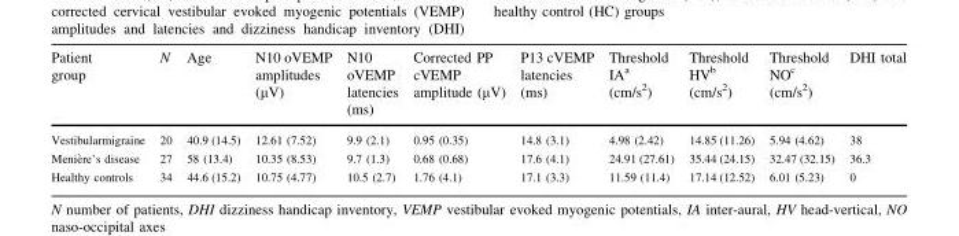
<table><thead><tr><td>Patient group</td><td>N</td><td>Age</td><td>N10 oVEMP amplitudes (µV)</td><td>N10 oVEMP latencies (ms)</td><td>Corrected PP cVEMP amplitude (μV)</td><td>P13 cVEMP latencies (ms)</td><td>Threshold IA<sup>a</sup> (cm/s<sup>2</sup>)</td><td>Threshold HV<sup>b</sup> (cm/s<sup>2</sup>)</td><td>Threshold NO<sup>c</sup> (cm/s<sup>2</sup>)</td><td>DHI total</td></tr></thead><tbody><tr><td>Vestibularmigraine</td><td>20</td><td>40.9 (14.5)</td><td>12.61 (7.52)</td><td>9.9 (2.1)</td><td>0.95 (0.35)</td><td>14.8 (3.1)</td><td>4.98 (2.42)</td><td>14.85 (11.26)</td><td>5.94 (4.62)</td><td>38</td></tr><tr><td>Menie`re’s disease</td><td>27</td><td>58 (13.4)</td><td>10.35 (8.53)</td><td>9.7 (1.3)</td><td>0.68 (0.68)</td><td>17.6 (4.1)</td><td>24.91 (27.61)</td><td>35.44 (24.15)</td><td>32.47 (32.15)</td><td>36.3</td></tr><tr><td>Healthy controls</td><td>34</td><td>44.6 (15.2)</td><td>10.75 (4.77)</td><td>10.5 (2.7)</td><td>1.76 (4.1)</td><td>17.1 (3.3)</td><td>11.59 (11.4)</td><td>17.14 (12.52)</td><td>6.01 (5.23)</td><td>0</td></tr></tbody></table>